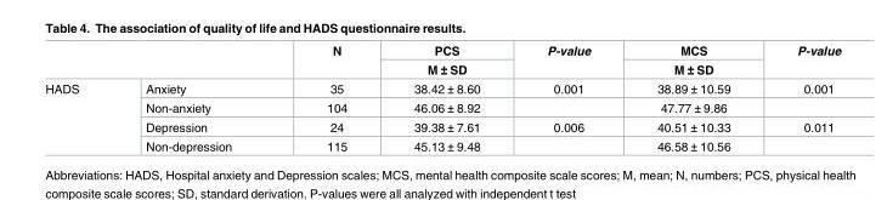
<table><thead><tr><td rowspan="2"></td><td rowspan="2"></td><td rowspan="2">N</td><td rowspan="2">PCS M ± SD</td><td rowspan="2">P-value</td><td rowspan="2">MCS M ± SD</td><td rowspan="2">P-value</td></tr><tr></tr></thead><tbody><tr><td rowspan="4">HADS</td><td>Anxiety</td><td>35</td><td>38.42 ± 8.60</td><td>0.001</td><td>38.89 ± 10.59</td><td>0.001</td></tr><tr><td>Non-anxiety</td><td>104</td><td>46.06 ± 8.92</td><td></td><td>47.77 ± 9.86</td><td></td></tr><tr><td>Depression</td><td>24</td><td>39.38 ± 7.61</td><td>0.006</td><td>40.51 ± 10.33</td><td>0.011</td></tr><tr><td>Non-depression</td><td>115</td><td>45.13 ± 9.48</td><td></td><td>46.58 ± 10.56</td><td></td></tr></tbody></table>